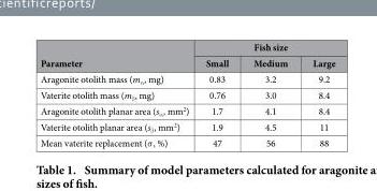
<table><thead><tr><td rowspan="2">Parameter</td><td colspan="3">Fish size</td></tr><tr><td>Small</td><td>Medium</td><td>Large</td></tr></thead><tbody><tr><td>Aragonite otolith mass (m<sub>α</sub>, mg)</td><td>0.83</td><td>3.2</td><td>9.2</td></tr><tr><td>Vaterite otolith mass (m<sub>β</sub>, mg)</td><td>0.76</td><td>3.0</td><td>8.4</td></tr><tr><td>Aragonite otolith planar area (s<sub>α</sub>, mm<sup>2</sup>)</td><td>1.7</td><td>4.1</td><td>8.4</td></tr><tr><td>Vaterite otolith planar area (s<sub>β</sub>, mm<sup>2</sup>)</td><td>1.9</td><td>4.5</td><td>11</td></tr><tr><td>Mean vaterite replacement (σ , %)</td><td>47</td><td>56</td><td>88</td></tr></tbody></table>